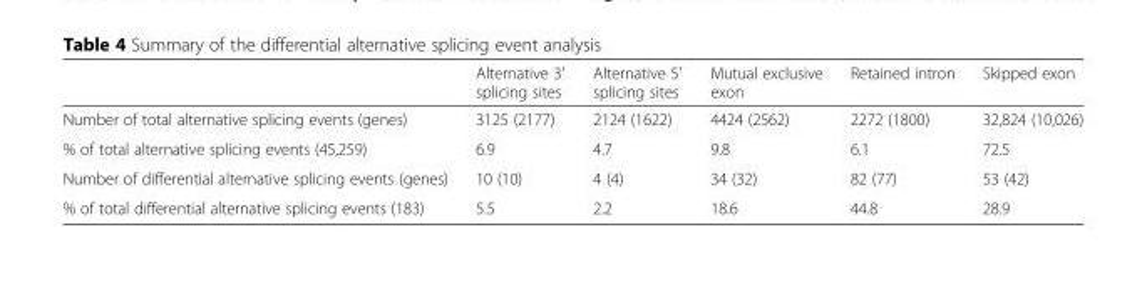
<table><thead><tr><td></td><td>Alternative 3′ splicing sites</td><td>Alternative 5′ splicing sites</td><td>Mutual exclusive exon</td><td>Retained intron</td><td>Skipped exon</td></tr></thead><tbody><tr><td>Number of total alternative splicing events (genes)</td><td>3125 (2177)</td><td>2124 (1622)</td><td>4424 (2562)</td><td>2272 (1800)</td><td>32,824 (10,026)</td></tr><tr><td>% of total alternative splicing events (45,259)</td><td>6.9</td><td>4.7</td><td>9.8</td><td>6.1</td><td>72.5</td></tr><tr><td>Number of differential alternative splicing events (genes)</td><td>10 (10)</td><td>4 (4)</td><td>34 (32)</td><td>82 (77)</td><td>53 (42)</td></tr><tr><td>% of total differential alternative splicing events (183)</td><td>5.5</td><td>2.2</td><td>18.6</td><td>44.8</td><td>28.9</td></tr></tbody></table>